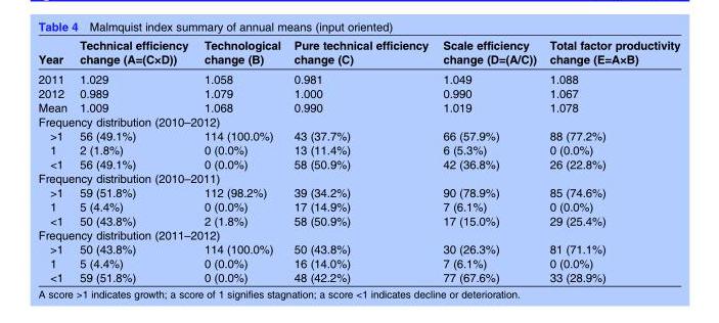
<table><thead><tr><td>Year</td><td>Technical efficiency change (A=(C×D))</td><td>Technological change (B)</td><td>Pure technical efficiency change (C)</td><td>Scale efficiency change (D=(A/C))</td><td>Total factor productivity change (E=A×B)</td></tr></thead><tbody><tr><td>2011</td><td>1.029</td><td>1.058</td><td>0.981</td><td>1.049</td><td>1.088</td></tr><tr><td>2012</td><td>0.989</td><td>1.079</td><td>1.000</td><td>0.990</td><td>1.067</td></tr><tr><td>Mean</td><td>1.009</td><td>1.068</td><td>0.990</td><td>1.019</td><td>1.078</td></tr><tr><td colspan="6">Frequency distribution (2010–2012)</td></tr><tr><td>&gt;1</td><td>56 (49.1%)</td><td>114 (100.0%)</td><td>43 (37.7%)</td><td>66 (57.9%)</td><td>88 (77.2%)</td></tr><tr><td>1</td><td>2 (1.8%)</td><td>0 (0.0%)</td><td>13 (11.4%)</td><td>6 (5.3%)</td><td>0 (0.0%)</td></tr><tr><td>&lt;1</td><td>56 (49.1%)</td><td>0 (0.0%)</td><td>58 (50.9%)</td><td>42 (36.8%)</td><td>26 (22.8%)</td></tr><tr><td colspan="6">Frequency distribution (2010–2011)</td></tr><tr><td>&gt;1</td><td>59 (51.8%)</td><td>112 (98.2%)</td><td>39 (34.2%)</td><td>90 (78.9%)</td><td>85 (74.6%)</td></tr><tr><td>1</td><td>5 (4.4%)</td><td>0 (0.0%)</td><td>17 (14.9%)</td><td>7 (6.1%)</td><td>0 (0.0%)</td></tr><tr><td>&lt;1</td><td>50 (43.8%)</td><td>2 (1.8%)</td><td>58 (50.9%)</td><td>17 (15.0%)</td><td>29 (25.4%)</td></tr><tr><td colspan="6">Frequency distribution (2011–2012)</td></tr><tr><td>&gt;1</td><td>50 (43.8%)</td><td>114 (100.0%)</td><td>50 (43.8%)</td><td>30 (26.3%)</td><td>81 (71.1%)</td></tr><tr><td>1</td><td>5 (4.4%)</td><td>0 (0.0%)</td><td>16 (14.0%)</td><td>7 (6.1%)</td><td>0 (0.0%)</td></tr><tr><td>&lt;1</td><td>59 (51.8%)</td><td>0 (0.0%)</td><td>48 (42.2%)</td><td>77 (67.6%)</td><td>33 (28.9%)</td></tr></tbody></table>